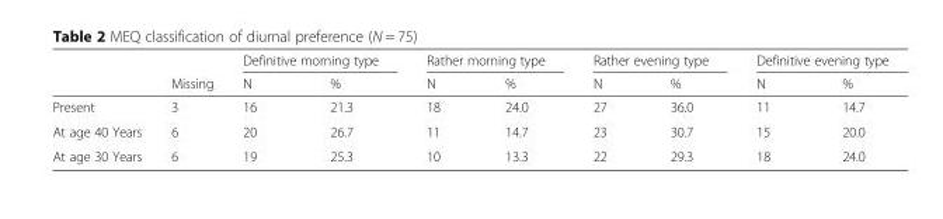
<table><thead><tr><td rowspan="2"></td><td rowspan="2">Missing</td><td colspan="2">Definitive morning type</td><td colspan="2">Rather morning type</td><td colspan="2">Rather evening type</td><td colspan="2">Definitive evening type</td></tr><tr><td>N</td><td>%</td><td>N</td><td>%</td><td>N</td><td>%</td><td>N</td><td>%</td></tr></thead><tbody><tr><td>Present</td><td>3</td><td>16</td><td>21.3</td><td>18</td><td>24.0</td><td>27</td><td>36.0</td><td>11</td><td>14.7</td></tr><tr><td>At age 40 Years</td><td>6</td><td>20</td><td>26.7</td><td>11</td><td>14.7</td><td>23</td><td>30.7</td><td>15</td><td>20.0</td></tr><tr><td>At age 30 Years</td><td>6</td><td>19</td><td>25.3</td><td>10</td><td>13.3</td><td>22</td><td>29.3</td><td>18</td><td>24.0</td></tr></tbody></table>